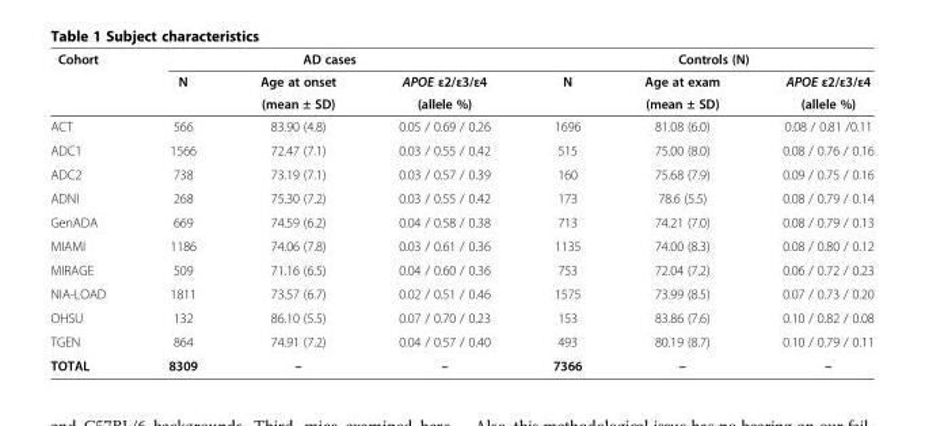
<table><thead><tr><td rowspan="3">Cohort</td><td colspan="3">AD cases</td><td colspan="3">Controls (N)</td></tr><tr><td rowspan="2">N</td><td rowspan="2">Age at onset (mean ± SD)</td><td rowspan="2">APOE ε2/ε3/ε4 (allele %)</td><td rowspan="2">N</td><td rowspan="2">Age at exam (mean ± SD)</td><td rowspan="2">APOE ε2/ε3/ε4 (allele %)</td></tr><tr></tr></thead><tbody><tr><td>ACT</td><td>566</td><td>83.90 (4.8)</td><td>0.05 / 0.69 / 0.26</td><td>1696</td><td>81.08 (6.0)</td><td>0.08 / 0.81 /0.11</td></tr><tr><td>ADC1</td><td>1566</td><td>72.47 (7.1)</td><td>0.03 / 0.55 / 0.42</td><td>515</td><td>75.00 (8.0)</td><td>0.08 / 0.76 / 0.16</td></tr><tr><td>ADC2</td><td>738</td><td>73.19 (7.1)</td><td>0.03 / 0.57 / 0.39</td><td>160</td><td>75.68 (7.9)</td><td>0.09 / 0.75 / 0.16</td></tr><tr><td>ADNI</td><td>268</td><td>75.30 (7.2)</td><td>0.03 / 0.55 / 0.42</td><td>173</td><td>78.6 (5.5)</td><td>0.08 / 0.79 / 0.14</td></tr><tr><td>GenADA</td><td>669</td><td>74.59 (6.2)</td><td>0.04 / 0.58 / 0.38</td><td>713</td><td>74.21 (7.0)</td><td>0.08 / 0.79 / 0.13</td></tr><tr><td>MIAMI</td><td>1186</td><td>74.06 (7.8)</td><td>0.03 / 0.61 / 0.36</td><td>1135</td><td>74.00 (8.3)</td><td>0.08 / 0.80 / 0.12</td></tr><tr><td>MIRAGE</td><td>509</td><td>71.16 (6.5)</td><td>0.04 / 0.60 / 0.36</td><td>753</td><td>72.04 (7.2)</td><td>0.06 / 0.72 / 0.23</td></tr><tr><td>NIA-LOAD</td><td>1811</td><td>73.57 (6.7)</td><td>0.02 / 0.51 / 0.46</td><td>1575</td><td>73.99 (8.5)</td><td>0.07 / 0.73 / 0.20</td></tr><tr><td>OHSU</td><td>132</td><td>86.10 (5.5)</td><td>0.07 / 0.70 / 0.23</td><td>153</td><td>83.86 (7.6)</td><td>0.10 / 0.82 / 0.08</td></tr><tr><td>TGEN</td><td>864</td><td>74.91 (7.2)</td><td>0.04 / 0.57 / 0.40</td><td>493</td><td>80.19 (8.7)</td><td>0.10 / 0.79 / 0.11</td></tr><tr><td>TOTAL</td><td>8309</td><td>–</td><td>–</td><td>7366</td><td>–</td><td>–</td></tr></tbody></table>